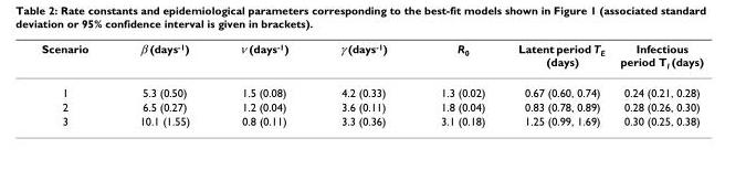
<table><thead><tr><td>Scenario</td><td>β (days<sup>-1</sup>)</td><td>ν (days<sup>-1</sup>)</td><td>γ (days<sup>-1</sup>)</td><td>R<sub>0</sub></td><td>Latent period TE (days)</td><td>Infectious period T<sub>I</sub> (days)</td></tr></thead><tbody><tr><td>1</td><td>5.3 (0.50)</td><td>1.5 (0.08)</td><td>4.2 (0.33)</td><td>1.3 (0.02)</td><td>0.67 (0.60, 0.74)</td><td>0.24 (0.21, 0.28)</td></tr><tr><td>2</td><td>6.5 (0.27)</td><td>1.2 (0.04)</td><td>3.6 (0.11)</td><td>1.8 (0.04)</td><td>0.83 (0.78, 0.89)</td><td>0.28 (0.26, 0.30)</td></tr><tr><td>3</td><td>10.1 (1.55)</td><td>0.8 (0.11)</td><td>3.3 (0.36)</td><td>3.1 (0.18)</td><td>1.25 (0.99, 1.69)</td><td>0.30 (0.25, 0.38)</td></tr></tbody></table>